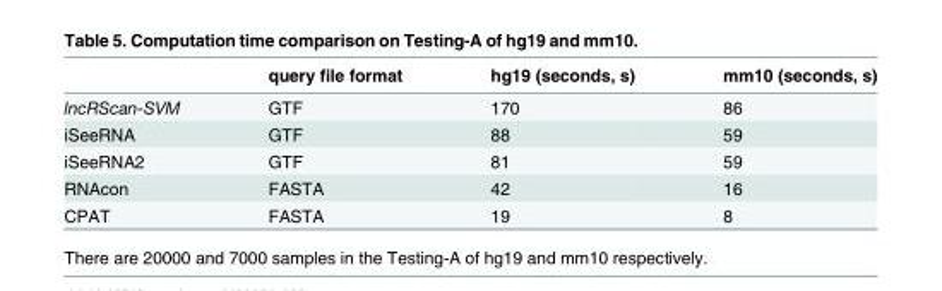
<table><thead><tr><td></td><td>query file format</td><td>hg19 (seconds, s)</td><td>mm10 (seconds, s)</td></tr></thead><tbody><tr><td>lncRScan-SVM</td><td>GTF</td><td>170</td><td>86</td></tr><tr><td>iSeeRNA</td><td>GTF</td><td>88</td><td>59</td></tr><tr><td>iSeeRNA2</td><td>GTF</td><td>81</td><td>59</td></tr><tr><td>RNAcon</td><td>FASTA</td><td>42</td><td>16</td></tr><tr><td>CPAT</td><td>FASTA</td><td>19</td><td>8</td></tr></tbody></table>